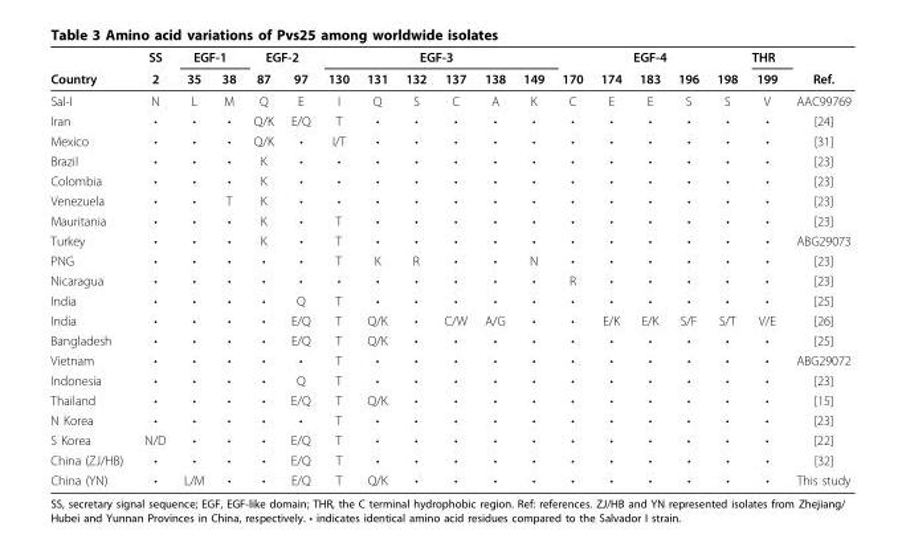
<table><thead><tr><td rowspan="2">Country</td><td rowspan="2">SS 2</td><td colspan="2">EGF-1</td><td colspan="2">EGF-2</td><td colspan="6">EGF-3</td><td colspan="5">EGF-4</td><td rowspan="2">THR 199</td><td rowspan="2">Ref.</td></tr><tr><td>35</td><td>38</td><td>87</td><td>97</td><td>130</td><td>131</td><td>132</td><td>137</td><td>138</td><td>149</td><td>170</td><td>174</td><td>183</td><td>196</td><td>198</td></tr></thead><tbody><tr><td>Sal-I</td><td>N</td><td>L</td><td>M</td><td>Q</td><td>E</td><td>I</td><td>Q</td><td>S</td><td>C</td><td>A</td><td>K</td><td>C</td><td>E</td><td>E</td><td>S</td><td>S</td><td>V</td><td>AAC99769</td></tr><tr><td>Iran</td><td>•</td><td>•</td><td>•</td><td>Q/K</td><td>E/Q</td><td>T</td><td>•</td><td>•</td><td>•</td><td>•</td><td>•</td><td>•</td><td>•</td><td>•</td><td>•</td><td>•</td><td>•</td><td>[24]</td></tr><tr><td>Mexico</td><td>•</td><td>•</td><td>•</td><td>Q/K</td><td>•</td><td>I/T</td><td>•</td><td>•</td><td>•</td><td>•</td><td>•</td><td>•</td><td>•</td><td>•</td><td>•</td><td>•</td><td>•</td><td>[31]</td></tr><tr><td>Brazil</td><td>•</td><td>•</td><td>•</td><td>K</td><td>•</td><td>•</td><td>•</td><td>•</td><td>•</td><td>•</td><td>•</td><td>•</td><td>•</td><td>•</td><td>•</td><td>•</td><td>•</td><td>[23]</td></tr><tr><td>Colombia</td><td>•</td><td>•</td><td>•</td><td>K</td><td>•</td><td>•</td><td>•</td><td>•</td><td>•</td><td>•</td><td>•</td><td>•</td><td>•</td><td>•</td><td>•</td><td>•</td><td>•</td><td>[23]</td></tr><tr><td>Venezuela</td><td>•</td><td>•</td><td>T</td><td>K</td><td>•</td><td>•</td><td>•</td><td>•</td><td>•</td><td>•</td><td>•</td><td>•</td><td>•</td><td>•</td><td>•</td><td>•</td><td>•</td><td>[23]</td></tr><tr><td>Mauritania</td><td>•</td><td>•</td><td>•</td><td>K</td><td>•</td><td>T</td><td>•</td><td>•</td><td>•</td><td>•</td><td>•</td><td>•</td><td>•</td><td>•</td><td>•</td><td>•</td><td>•</td><td>[23]</td></tr><tr><td>Turkey</td><td>•</td><td>•</td><td>•</td><td>K</td><td>•</td><td>T</td><td>•</td><td>•</td><td>•</td><td>•</td><td>•</td><td>•</td><td>•</td><td>•</td><td>•</td><td>•</td><td>•</td><td>ABG29073</td></tr><tr><td>PNG</td><td>•</td><td>•</td><td>•</td><td>•</td><td>•</td><td>T</td><td>K</td><td>R</td><td>•</td><td>•</td><td>N</td><td>•</td><td>•</td><td>•</td><td>•</td><td>•</td><td>•</td><td>[23]</td></tr><tr><td>Nicaragua</td><td>•</td><td>•</td><td>•</td><td>•</td><td>•</td><td>•</td><td>•</td><td>•</td><td>•</td><td>•</td><td>•</td><td>R</td><td>•</td><td>•</td><td>•</td><td>•</td><td>•</td><td>[23]</td></tr><tr><td>India</td><td>•</td><td>•</td><td>•</td><td>•</td><td>Q</td><td>T</td><td>•</td><td>•</td><td>•</td><td>•</td><td>•</td><td>•</td><td>•</td><td>•</td><td>•</td><td>•</td><td>•</td><td>[25]</td></tr><tr><td>India</td><td>•</td><td>•</td><td>•</td><td>•</td><td>E/Q</td><td>T</td><td>Q/K</td><td>•</td><td>C/W</td><td>A/G</td><td>•</td><td>•</td><td>E/K</td><td>E/K</td><td>S/F</td><td>S/T</td><td>V/E</td><td>[26]</td></tr><tr><td>Bangladesh</td><td>•</td><td>•</td><td>•</td><td>•</td><td>E/Q</td><td>T</td><td>Q/K</td><td>•</td><td>•</td><td>•</td><td>•</td><td>•</td><td>•</td><td>•</td><td>•</td><td>•</td><td>•</td><td>[25]</td></tr><tr><td>Vietnam</td><td>•</td><td>•</td><td>•</td><td>•</td><td>•</td><td>T</td><td>•</td><td>•</td><td>•</td><td>•</td><td>•</td><td>•</td><td>•</td><td>•</td><td>•</td><td>•</td><td>•</td><td>ABG29072</td></tr><tr><td>Indonesia</td><td>•</td><td>•</td><td>•</td><td>•</td><td>Q</td><td>T</td><td>•</td><td>•</td><td>•</td><td>•</td><td>•</td><td>•</td><td>•</td><td>•</td><td>•</td><td>•</td><td>•</td><td>[23]</td></tr><tr><td>Thailand</td><td>•</td><td>•</td><td>•</td><td>•</td><td>E/Q</td><td>T</td><td>Q/K</td><td>•</td><td>•</td><td>•</td><td>•</td><td>•</td><td>•</td><td>•</td><td>•</td><td>•</td><td>•</td><td>[15]</td></tr><tr><td>N Korea</td><td>•</td><td>•</td><td>•</td><td>•</td><td>•</td><td>T</td><td>•</td><td>•</td><td>•</td><td>•</td><td>•</td><td>•</td><td>•</td><td>•</td><td>•</td><td>•</td><td>•</td><td>[23]</td></tr><tr><td>S Korea</td><td>N/D</td><td>•</td><td>•</td><td>•</td><td>E/Q</td><td>T</td><td>•</td><td>•</td><td>•</td><td>•</td><td>•</td><td>•</td><td>•</td><td>•</td><td>•</td><td>•</td><td>•</td><td>[22]</td></tr><tr><td>China (ZJ/HB)</td><td>•</td><td>•</td><td>•</td><td>•</td><td>E/Q</td><td>T</td><td>•</td><td>•</td><td>•</td><td>•</td><td>•</td><td>•</td><td>•</td><td>•</td><td>•</td><td>•</td><td>•</td><td>[32]</td></tr><tr><td>China (YN)</td><td>•</td><td>L/M</td><td>•</td><td>•</td><td>E/Q</td><td>T</td><td>Q/K</td><td>•</td><td>•</td><td>•</td><td>•</td><td>•</td><td>•</td><td>•</td><td>•</td><td>•</td><td>•</td><td>This study</td></tr></tbody></table>